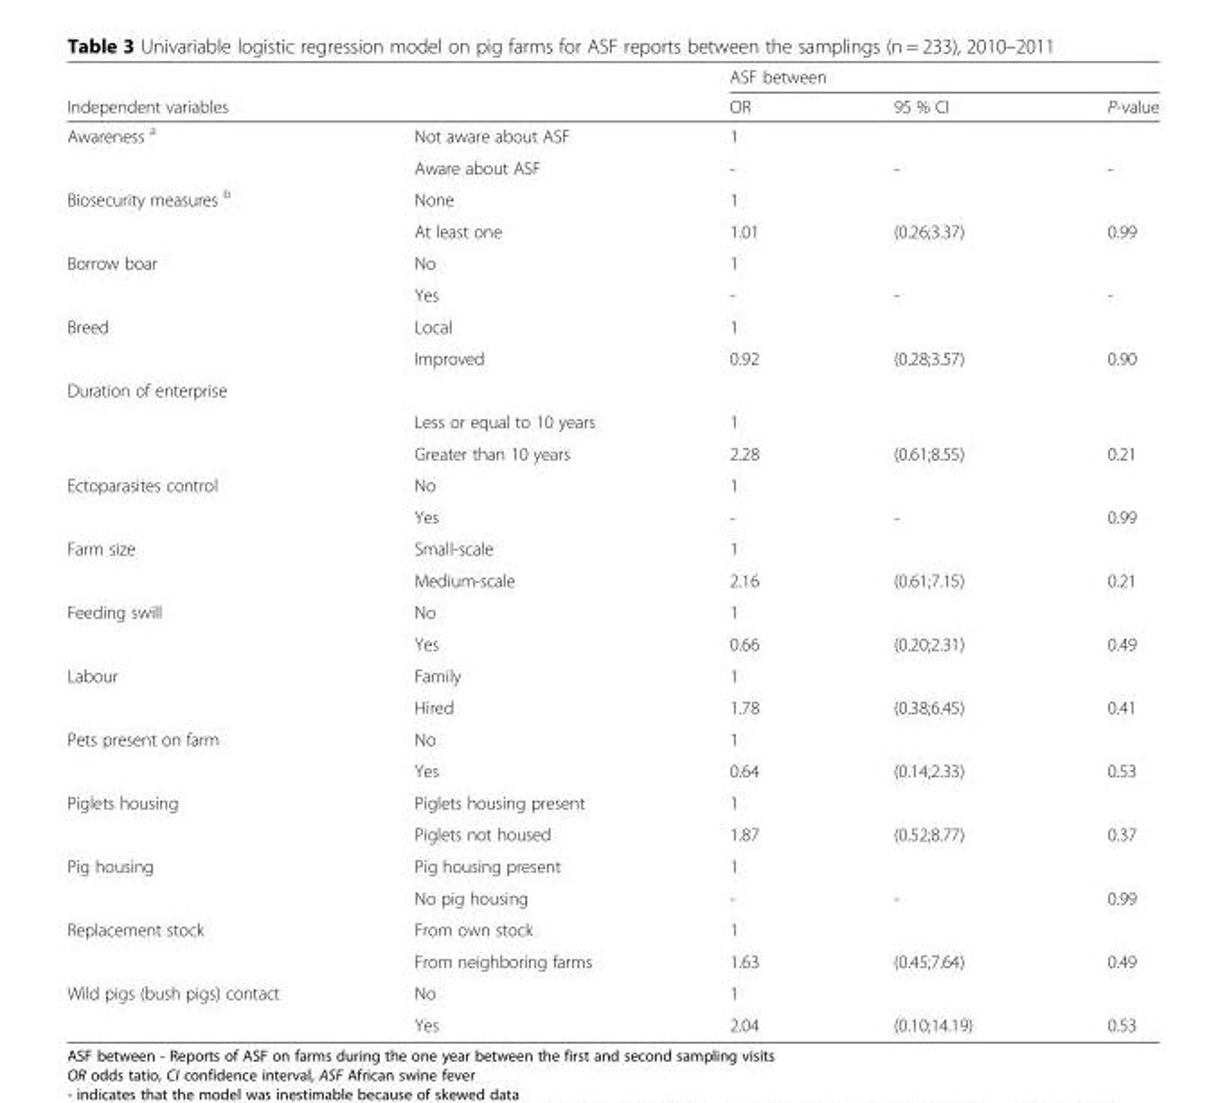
<table><thead><tr><td></td><td></td><td colspan="3">ASF between</td></tr><tr><td colspan="2">Independent variables</td><td>OR</td><td>95 % CI</td><td>P-value</td></tr></thead><tbody><tr><td rowspan="2">Awareness <sup>a</sup></td><td>Not aware about ASF</td><td>1</td><td></td><td></td></tr><tr><td>Aware about ASF</td><td>-</td><td>-</td><td>-</td></tr><tr><td rowspan="2">Biosecurity measures <sup>b</sup></td><td>None</td><td>1</td><td></td><td></td></tr><tr><td>At least one</td><td>1.01</td><td>(0.26;3.37)</td><td>0.99</td></tr><tr><td rowspan="2">Borrow boar</td><td>No</td><td>1</td><td></td><td></td></tr><tr><td>Yes</td><td>-</td><td>-</td><td>-</td></tr><tr><td rowspan="2">Breed</td><td>Local</td><td>1</td><td></td><td></td></tr><tr><td>Improved</td><td>0.92</td><td>(0.28;3.57)</td><td>0.90</td></tr><tr><td colspan="5">Duration of enterprise</td></tr><tr><td></td><td>Less or equal to 10 years</td><td>1</td><td></td><td></td></tr><tr><td></td><td>Greater than 10 years</td><td>2.28</td><td>(0.61;8.55)</td><td>0.21</td></tr><tr><td rowspan="2">Ectoparasites control</td><td>No</td><td>1</td><td></td><td></td></tr><tr><td>Yes</td><td>-</td><td>-</td><td>0.99</td></tr><tr><td rowspan="2">Farm size</td><td>Small-scale</td><td>1</td><td></td><td></td></tr><tr><td>Medium-scale</td><td>2.16</td><td>(0.61;7.15)</td><td>0.21</td></tr><tr><td rowspan="2">Feeding swill</td><td>No</td><td>1</td><td></td><td></td></tr><tr><td>Yes</td><td>0.66</td><td>(0.20;2.31)</td><td>0.49</td></tr><tr><td rowspan="2">Labour</td><td>Family</td><td>1</td><td></td><td></td></tr><tr><td>Hired</td><td>1.78</td><td>(0.38;6.45)</td><td>0.41</td></tr><tr><td rowspan="2">Pets present on farm</td><td>No</td><td>1</td><td></td><td></td></tr><tr><td>Yes</td><td>0.64</td><td>(0.14;2.33)</td><td>0.53</td></tr><tr><td rowspan="2">Piglets housing</td><td>Piglets housing present</td><td>1</td><td></td><td></td></tr><tr><td>Piglets not housed</td><td>1.87</td><td>(0.52;8.77)</td><td>0.37</td></tr><tr><td rowspan="2">Pig housing</td><td>Pig housing present</td><td>1</td><td></td><td></td></tr><tr><td>No pig housing</td><td>-</td><td>-</td><td>0.99</td></tr><tr><td rowspan="2">Replacement stock</td><td>From own stock</td><td>1</td><td></td><td></td></tr><tr><td>From neighboring farms</td><td>1.63</td><td>(0.45;7.64)</td><td>0.49</td></tr><tr><td rowspan="2">Wild pigs (bush pigs) contact</td><td>No</td><td>1</td><td></td><td></td></tr><tr><td>Yes</td><td>2.04</td><td>(0.10;14.19)</td><td>0.53</td></tr></tbody></table>